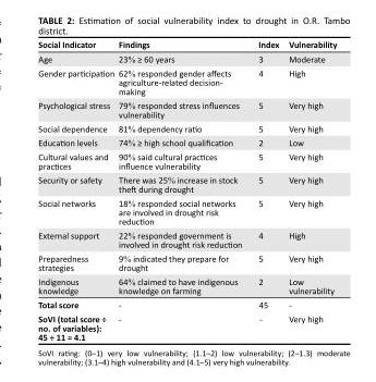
<table><thead><tr><td>Social Indicator</td><td>Findings</td><td>Index</td><td>Vulnerability</td></tr></thead><tbody><tr><td>Age</td><td>23% ≥ 60 years</td><td>3</td><td>Moderate</td></tr><tr><td>Gender participation</td><td>62% responded gender affects agriculture-related decision- making</td><td>4</td><td>High</td></tr><tr><td>Psychological stress</td><td>79% responded stress influences vulnerability</td><td>5</td><td>Very high</td></tr><tr><td>Social dependence</td><td>81% dependency ratio</td><td>5</td><td>Very high</td></tr><tr><td>Education levels</td><td>74% ≥ high school qualification</td><td>2</td><td>Low</td></tr><tr><td>Cultural values and practices</td><td>90% said cultural practices influence vulnerability</td><td>5</td><td>Very high</td></tr><tr><td>Security or safety</td><td>There was 25% increase in stock theft during drought</td><td>5</td><td>Very high</td></tr><tr><td>Social networks</td><td>18% responded social networks are involved in drought risk reduction</td><td>5</td><td>Very high</td></tr><tr><td>External support</td><td>22% responded government is involved in drought risk reduction</td><td>4</td><td>High</td></tr><tr><td>Preparedness strategies</td><td>9% indicated they prepare for drought</td><td>5</td><td>Very high</td></tr><tr><td>Indigenous knowledge</td><td>64% claimed to have indigenous knowledge on farming</td><td>2</td><td>Low vulnerability</td></tr><tr><td>Total score</td><td>-</td><td>45</td><td>-</td></tr><tr><td>SoVI (total score ÷ no. of variables): 45 ÷ 11 = 4.1</td><td>-</td><td>-</td><td>Very high</td></tr></tbody></table>